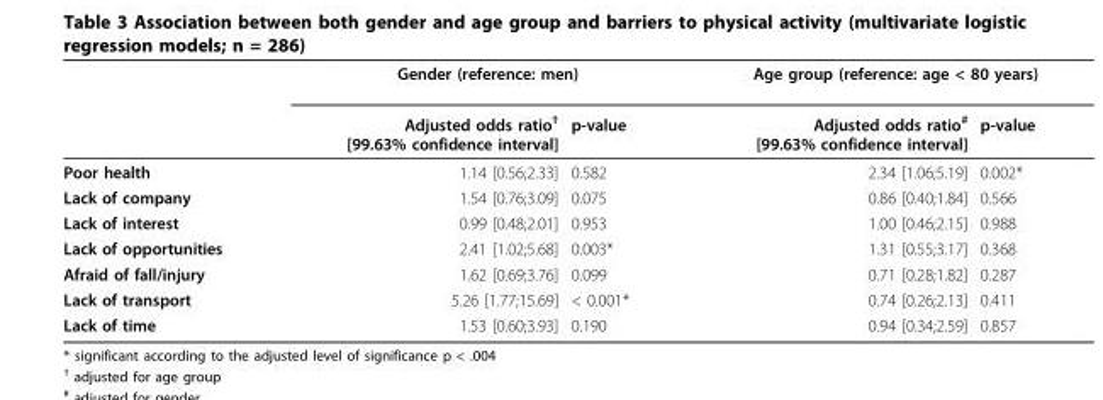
<table><thead><tr><td rowspan="2"></td><td colspan="2">Gender (reference: men)</td><td colspan="2">Age group (reference: age &lt; 80 years)</td></tr><tr><td>Adjusted odds ratio<sup>†</sup> [99.63% confidence interval]</td><td>p-value</td><td>Adjusted odds ratio<sup>#</sup> [99.63% confidence interval]</td><td>p-value</td></tr></thead><tbody><tr><td>Poor health</td><td>1.14 [0.56;2.33]</td><td>0.582</td><td>2.34 [1.06;5.19]</td><td>0.002*</td></tr><tr><td>Lack of company</td><td>1.54 [0.76;3.09]</td><td>0.075</td><td>0.86 [0.40;1.84]</td><td>0.566</td></tr><tr><td>Lack of interest</td><td>0.99 [0.48;2.01]</td><td>0.953</td><td>1.00 [0.46;2.15]</td><td>0.988</td></tr><tr><td>Lack of opportunities</td><td>2.41 [1.02;5.68]</td><td>0.003*</td><td>1.31 [0.55;3.17]</td><td>0.368</td></tr><tr><td>Afraid of fall/injury</td><td>1.62 [0.69;3.76]</td><td>0.099</td><td>0.71 [0.28;1.82]</td><td>0.287</td></tr><tr><td>Lack of transport</td><td>5.26 [1.77;15.69]</td><td>&lt; 0.001*</td><td>0.74 [0.26;2.13]</td><td>0.411</td></tr><tr><td>Lack of time</td><td>1.53 [0.60;3.93]</td><td>0.190</td><td>0.94 [0.34;2.59]</td><td>0.857</td></tr></tbody></table>